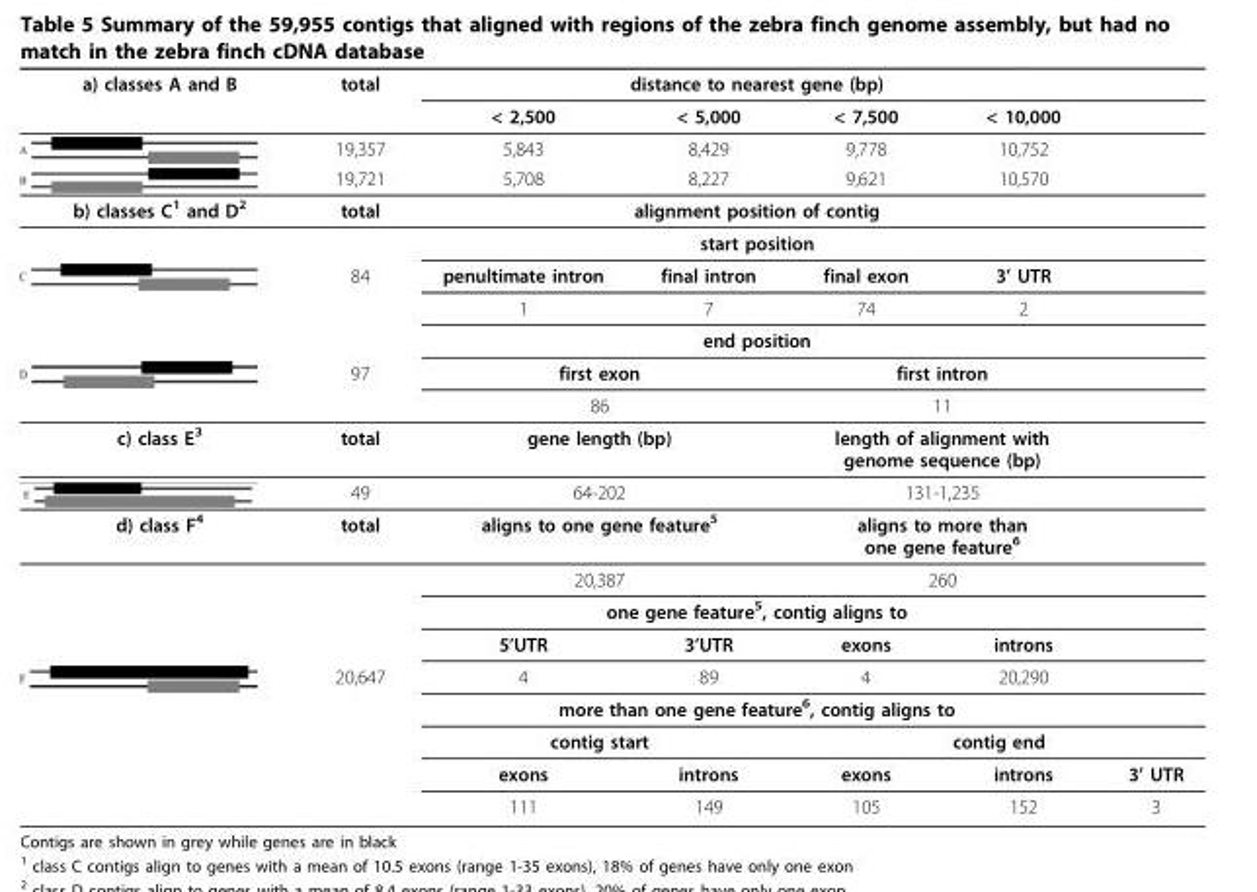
<table><thead><tr><td rowspan="2">a) classes A and B</td><td rowspan="2">total</td><td colspan="4">distance to nearest gene (bp)</td><td rowspan="2"></td></tr><tr><td>&lt; 2,500</td><td>&lt; 5,000</td><td>&lt; 7,500</td><td>&lt; 10,000</td></tr></thead><tbody><tr><td></td><td>19,357</td><td>5,843</td><td>8,429</td><td>9,778</td><td>10,752</td><td></td></tr><tr><td></td><td>19,721</td><td>5,708</td><td>8,227</td><td>9,621</td><td>10,570</td><td></td></tr><tr><td rowspan="7">b) classes C<sup>1</sup> and D<sup>2</sup></td><td>total</td><td colspan="4">alignment position of contig</td><td></td></tr><tr><td></td><td colspan="4">start position</td><td></td></tr><tr><td>84</td><td>penultimate intron</td><td>final intron</td><td>final exon</td><td>3’ UTR</td><td></td></tr><tr><td></td><td>1</td><td>7</td><td>74</td><td>2</td><td></td></tr><tr><td></td><td colspan="4">end position</td><td></td></tr><tr><td>97</td><td colspan="2">first exon</td><td colspan="2">first intron</td><td></td></tr><tr><td></td><td colspan="2">86</td><td colspan="2">11</td><td></td></tr><tr><td rowspan="2">c) class E<sup>3</sup></td><td>total</td><td colspan="2">gene length (bp)</td><td colspan="2">length of alignment with genome sequence (bp)</td><td></td></tr><tr><td>49</td><td colspan="2">64-202</td><td colspan="2">131-1,235</td><td></td></tr><tr><td rowspan="9">d) class F<sup>4</sup></td><td>total</td><td colspan="2">aligns to one gene feature<sup>5</sup></td><td colspan="2">aligns to more than one gene feature<sup>6</sup></td><td></td></tr><tr><td></td><td colspan="2">20,387</td><td colspan="2">260</td><td></td></tr><tr><td></td><td colspan="4">one gene feature<sup>5</sup>, contig aligns to</td><td></td></tr><tr><td></td><td>5’UTR</td><td>3’UTR</td><td>exons</td><td>introns</td><td></td></tr><tr><td>20,647</td><td>4</td><td>89</td><td>4</td><td>20,290</td><td></td></tr><tr><td></td><td colspan="4">more than one gene feature<sup>6</sup>, contig aligns to</td><td></td></tr><tr><td></td><td colspan="2">contig start</td><td colspan="3">contig end</td></tr><tr><td></td><td>exons</td><td>introns</td><td>exons</td><td>introns</td><td>3’ UTR</td></tr><tr><td></td><td>111</td><td>149</td><td>105</td><td>152</td><td>3</td></tr></tbody></table>